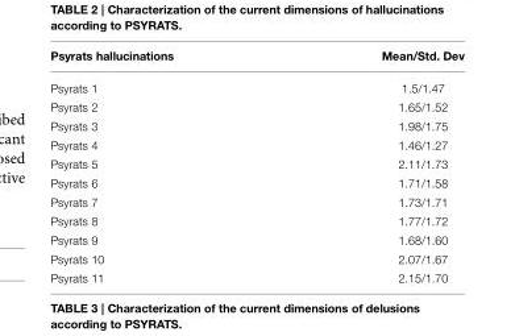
<table><thead><tr><td>Psyrats hallucinations</td><td>Mean/Std. Dev</td></tr></thead><tbody><tr><td>Psyrats 1</td><td>1.5/1.47</td></tr><tr><td>Psyrats 2</td><td>1.65/1.52</td></tr><tr><td>Psyrats 3</td><td>1.98/1.75</td></tr><tr><td>Psyrats 4</td><td>1.46/1.27</td></tr><tr><td>Psyrats 5</td><td>2.11/1.73</td></tr><tr><td>Psyrats 6</td><td>1.71/1.58</td></tr><tr><td>Psyrats 7</td><td>1.73/1.71</td></tr><tr><td>Psyrats 8</td><td>1.77/1.72</td></tr><tr><td>Psyrats 9</td><td>1.68/1.60</td></tr><tr><td>Psyrats 10</td><td>2.07/1.67</td></tr><tr><td>Psyrats 11</td><td>2.15/1.70</td></tr></tbody></table>